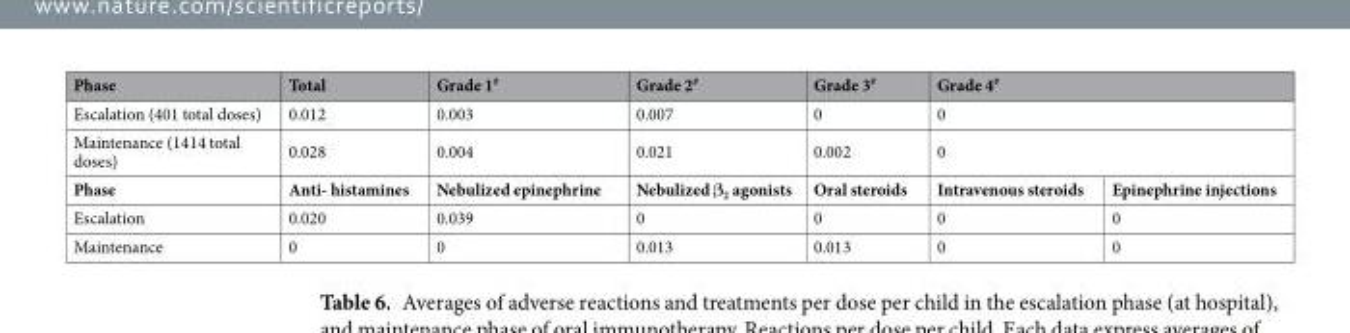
<table><thead><tr><td rowspan="4">Phase Escalation (401 total doses) Maintenance (1414 total doses) Phase</td><td rowspan="4">Total 0.012 0.028 Anti- histamines</td><td rowspan="4">Grade 1<sup>#</sup> 0.003 0.004 Nebulized epinephrine</td><td rowspan="4">Grade 2<sup>#</sup> 0.007 0.021 Nebulized β<sub>2</sub> agonists</td><td rowspan="4">Grade 3# 0 0.002 Oral steroids</td><td rowspan="3" colspan="2">Grade 4<sup>#</sup> 0 0</td></tr><tr></tr><tr></tr><tr><td>Intravenous steroids</td><td>Epinephrine injections</td></tr></thead><tbody><tr><td>Escalation</td><td>0.020</td><td>0.039</td><td>0</td><td>0</td><td>0</td><td>0</td></tr><tr><td>Maintenance</td><td>0</td><td>0</td><td>0.013</td><td>0.013</td><td>0</td><td>0</td></tr></tbody></table>